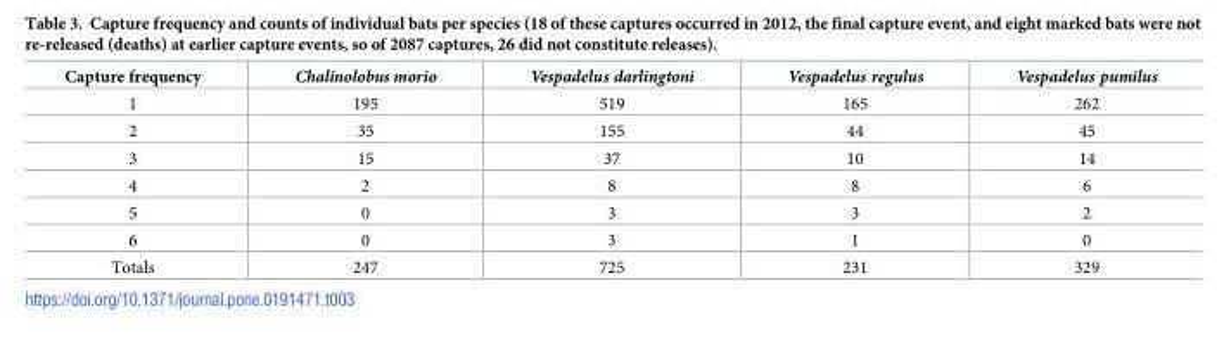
<table><thead><tr><td>Capture frequency</td><td>Chalinolobus morio</td><td>Vespadelus darlingtoni</td><td>Vespadelus regulus</td><td>Vespadelus pumilus</td></tr></thead><tbody><tr><td>1</td><td>195</td><td>519</td><td>165</td><td>262</td></tr><tr><td>2</td><td>35</td><td>155</td><td>44</td><td>45</td></tr><tr><td>3</td><td>15</td><td>37</td><td>10</td><td>14</td></tr><tr><td>4</td><td>2</td><td>8</td><td>8</td><td>6</td></tr><tr><td>5</td><td>0</td><td>3</td><td>3</td><td>2</td></tr><tr><td>6</td><td>0</td><td>3</td><td>1</td><td>0</td></tr><tr><td>Totals</td><td>247</td><td>725</td><td>231</td><td>329</td></tr></tbody></table>